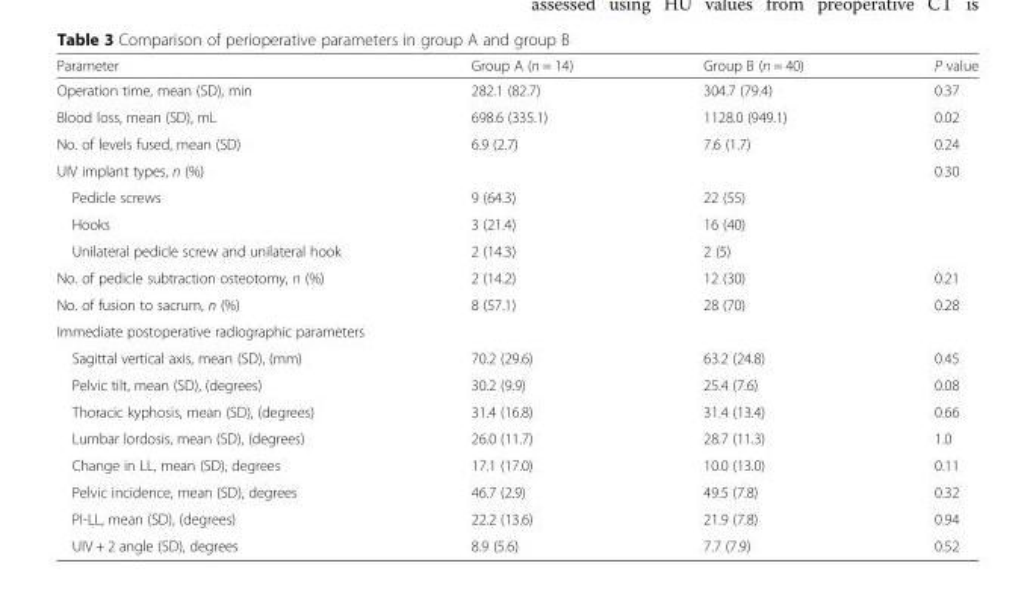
<table><thead><tr><td>Parameter</td><td>Group A (n = 14)</td><td>Group B (n = 40)</td><td>P value</td></tr></thead><tbody><tr><td>Operation time, mean (SD), min</td><td>282.1 (82.7)</td><td>304.7 (79.4)</td><td>0.37</td></tr><tr><td>Blood loss, mean (SD), mL</td><td>698.6 (335.1)</td><td>1128.0 (949.1)</td><td>0.02</td></tr><tr><td>No. of levels fused, mean (SD)</td><td>6.9 (2.7)</td><td>7.6 (1.7)</td><td>0.24</td></tr><tr><td>UIV implant types, n (%)</td><td></td><td></td><td>0.30</td></tr><tr><td>Pedicle screws</td><td>9 (64.3)</td><td>22 (55)</td><td></td></tr><tr><td>Hooks</td><td>3 (21.4)</td><td>16 (40)</td><td></td></tr><tr><td>Unilateral pedicle screw and unilateral hook</td><td>2 (14.3)</td><td>2 (5)</td><td></td></tr><tr><td>No. of pedicle subtraction osteotomy, n (%)</td><td>2 (14.2)</td><td>12 (30)</td><td>0.21</td></tr><tr><td>No. of fusion to sacrum, n (%)</td><td>8 (57.1)</td><td>28 (70)</td><td>0.28</td></tr><tr><td colspan="4">Immediate postoperative radiographic parameters</td></tr><tr><td>Sagittal vertical axis, mean (SD), (mm)</td><td>70.2 (29.6)</td><td>63.2 (24.8)</td><td>0.45</td></tr><tr><td>Pelvic tilt, mean (SD), (degrees)</td><td>30.2 (9.9)</td><td>25.4 (7.6)</td><td>0.08</td></tr><tr><td>Thoracic kyphosis, mean (SD), (degrees)</td><td>31.4 (16.8)</td><td>31.4 (13.4)</td><td>0.66</td></tr><tr><td>Lumbar lordosis, mean (SD), (degrees)</td><td>26.0 (11.7)</td><td>28.7 (11.3)</td><td>1.0</td></tr><tr><td>Change in LL, mean (SD), degrees</td><td>17.1 (17.0)</td><td>10.0 (13.0)</td><td>0.11</td></tr><tr><td>Pelvic incidence, mean (SD), degrees</td><td>46.7 (2.9)</td><td>49.5 (7.8)</td><td>0.32</td></tr><tr><td>PI-LL, mean (SD), (degrees)</td><td>22.2 (13.6)</td><td>21.9 (7.8)</td><td>0.94</td></tr><tr><td>UIV + 2 angle (SD), degrees</td><td>8.9 (5.6)</td><td>7.7 (7.9)</td><td>0.52</td></tr></tbody></table>